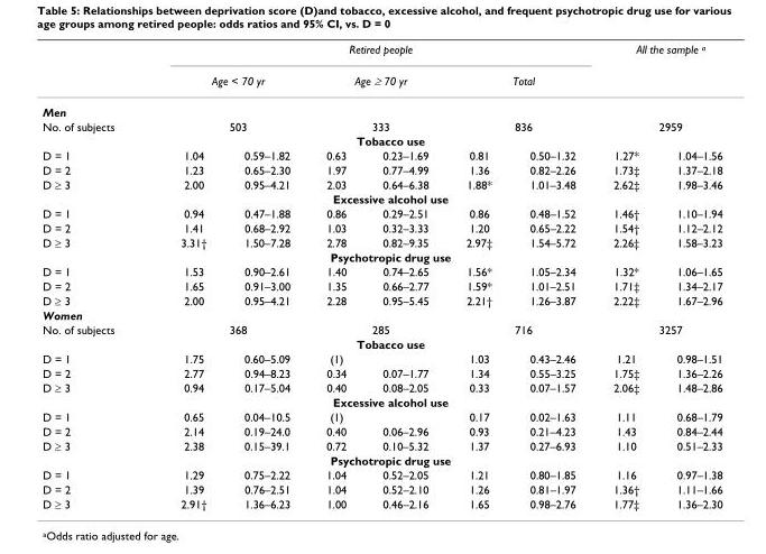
<table><thead><tr><td rowspan="3">Men</td><td colspan="6">Retired people</td><td colspan="2">All the sample <sup>a</sup></td></tr><tr><td colspan="2">Age &lt; 70 yr</td><td colspan="2">Age ≥ 70 yr</td><td colspan="2">Total</td><td rowspan="2"></td><td rowspan="2"></td></tr><tr><td></td><td></td><td></td><td></td><td></td><td></td></tr></thead><tbody><tr><td>No. of subjects</td><td colspan="2">503</td><td colspan="2">333</td><td colspan="2">836</td><td colspan="2">2959</td></tr><tr><td colspan="9">Tobacco use</td></tr><tr><td>D = 1</td><td>1.04</td><td>0.59–1.82</td><td>0.63</td><td>0.23–1.69</td><td>0.81</td><td>0.50–1.32</td><td>1.27*</td><td>1.04–1.56</td></tr><tr><td>D = 2</td><td>1.23</td><td>0.65–2.30</td><td>1.97</td><td>0.77–4.99</td><td>1.36</td><td>0.82–2.26</td><td>1.73‡</td><td>1.37–2.18</td></tr><tr><td>D ≥ 3</td><td>2.00</td><td>0.95–4.21</td><td>2.03</td><td>0.64–6.38</td><td>1.88*</td><td>1.01–3.48</td><td>2.62‡</td><td>1.98–3.46</td></tr><tr><td colspan="9">Excessive alcohol use</td></tr><tr><td>D = 1</td><td>0.94</td><td>0.47–1.88</td><td>0.86</td><td>0.29–2.51</td><td>0.86</td><td>0.48–1.52</td><td>1.46†</td><td>1.10–1.94</td></tr><tr><td>D = 2</td><td>1.41</td><td>0.68–2.92</td><td>1.03</td><td>0.32–3.33</td><td>1.20</td><td>0.65–2.22</td><td>1.54†</td><td>1.12–2.12</td></tr><tr><td>D ≥ 3</td><td>3.31†</td><td>1.50–7.28</td><td>2.78</td><td>0.82–9.35</td><td>2.97‡</td><td>1.54–5.72</td><td>2.26‡</td><td>1.58–3.23</td></tr><tr><td colspan="9">Psychotropic drug use</td></tr><tr><td>D = 1</td><td>1.53</td><td>0.90–2.61</td><td>1.40</td><td>0.74–2.65</td><td>1.56*</td><td>1.05–2.34</td><td>1.32*</td><td>1.06–1.65</td></tr><tr><td>D = 2</td><td>1.65</td><td>0.91–3.00</td><td>1.35</td><td>0.66–2.77</td><td>1.59*</td><td>1.01–2.51</td><td>1.71‡</td><td>1.34–2.17</td></tr><tr><td>D ≥ 3</td><td>2.00</td><td>0.95–4.21</td><td>2.28</td><td>0.95–5.45</td><td>2.21†</td><td>1.26–3.87</td><td>2.22‡</td><td>1.67–2.96</td></tr><tr><td colspan="9">Women</td></tr><tr><td>No. of subjects</td><td colspan="2">368</td><td colspan="2">285</td><td colspan="2">716</td><td colspan="2">3257</td></tr><tr><td colspan="9">Tobacco use</td></tr><tr><td>D = 1</td><td>1.75</td><td>0.60–5.09</td><td>(1)</td><td></td><td>1.03</td><td>0.43–2.46</td><td>1.21</td><td>0.98–1.51</td></tr><tr><td>D = 2</td><td>2.77</td><td>0.94–8.23</td><td>0.34</td><td>0.07–1.77</td><td>1.34</td><td>0.55–3.25</td><td>1.75‡</td><td>1.36–2.26</td></tr><tr><td>D ≥ 3</td><td>0.94</td><td>0.17–5.04</td><td>0.40</td><td>0.08–2.05</td><td>0.33</td><td>0.07–1.57</td><td>2.06‡</td><td>1.48–2.86</td></tr><tr><td colspan="9">Excessive alcohol use</td></tr><tr><td>D = 1</td><td>0.65</td><td>0.04–10.5</td><td>(1)</td><td></td><td>0.17</td><td>0.02–1.63</td><td>1.11</td><td>0.68–1.79</td></tr><tr><td>D = 2</td><td>2.14</td><td>0.19–24.0</td><td>0.40</td><td>0.06–2.96</td><td>0.93</td><td>0.21–4.23</td><td>1.43</td><td>0.84–2.44</td></tr><tr><td>D ≥ 3</td><td>2.38</td><td>0.15–39.1</td><td>0.72</td><td>0.10–5.32</td><td>1.37</td><td>0.27–6.93</td><td>1.10</td><td>0.51–2.33</td></tr><tr><td colspan="9">Psychotropic drug use</td></tr><tr><td>D = 1</td><td>1.29</td><td>0.75–2.22</td><td>1.04</td><td>0.52–2.05</td><td>1.21</td><td>0.80–1.85</td><td>1.16</td><td>0.97–1.38</td></tr><tr><td>D = 2</td><td>1.39</td><td>0.76–2.51</td><td>1.04</td><td>0.52–2.10</td><td>1.26</td><td>0.81–1.97</td><td>1.36†</td><td>1.11–1.66</td></tr><tr><td>D ≥ 3</td><td>2.91†</td><td>1.36–6.23</td><td>1.00</td><td>0.46–2.16</td><td>1.65</td><td>0.98–2.76</td><td>1.77‡</td><td>1.36–2.30</td></tr></tbody></table>